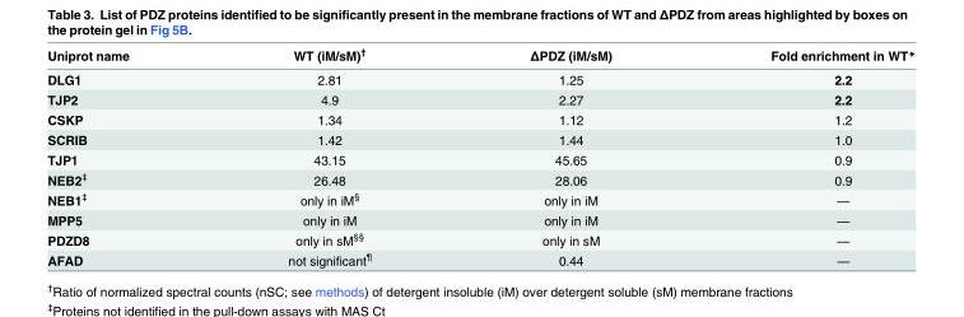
<table><thead><tr><td>Uniprot name</td><td>WT (iM/sM)<sup>†</sup></td><td>ΔPDZ (iM/sM)</td><td>Fold enrichment in WT*</td></tr></thead><tbody><tr><td>DLG1</td><td>2.81</td><td>1.25</td><td>2.2</td></tr><tr><td>TJP2</td><td>4.9</td><td>2.27</td><td>2.2</td></tr><tr><td>CSKP</td><td>1.34</td><td>1.12</td><td>1.2</td></tr><tr><td>SCRIB</td><td>1.42</td><td>1.44</td><td>1.0</td></tr><tr><td>TJP1</td><td>43.15</td><td>45.65</td><td>0.9</td></tr><tr><td>NEB2<sup>‡</sup></td><td>26.48</td><td>28.06</td><td>0.9</td></tr><tr><td>NEB1<sup>‡</sup></td><td>only in iM<sup>§</sup></td><td>only in iM</td><td>—</td></tr><tr><td>MPP5</td><td>only in iM</td><td>only in iM</td><td>—</td></tr><tr><td>PDZD8</td><td>only in sM<sup>§§</sup></td><td>only in sM</td><td>—</td></tr><tr><td>AFAD</td><td>not significant<sup>¶</sup></td><td>0.44</td><td>—</td></tr></tbody></table>